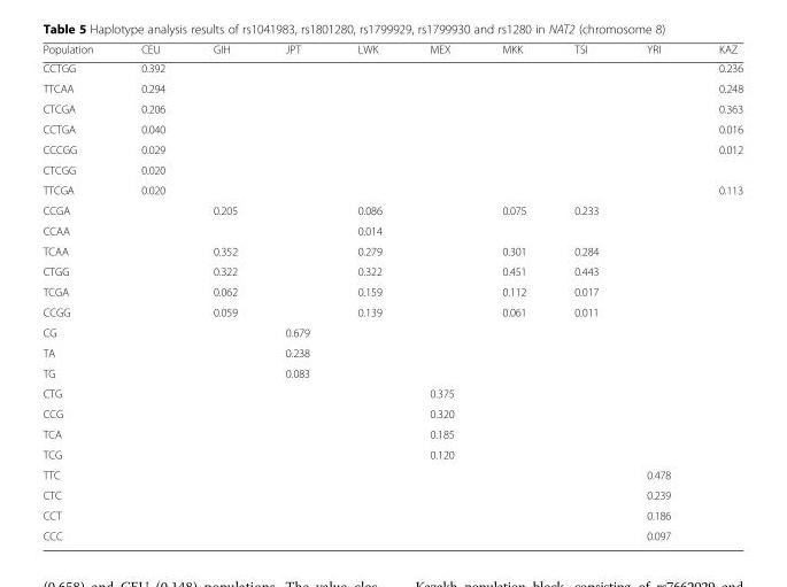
<table><thead><tr><td>Population</td><td>CEU</td><td>GIH</td><td>JPT</td><td>LWK</td><td>MEX</td><td>MKK</td><td>TSI</td><td>YRI</td><td>KAZ</td></tr></thead><tbody><tr><td>CCTGG</td><td>0.392</td><td></td><td></td><td></td><td></td><td></td><td></td><td></td><td>0.236</td></tr><tr><td>TTCAA</td><td>0.294</td><td></td><td></td><td></td><td></td><td></td><td></td><td></td><td>0.248</td></tr><tr><td>CTCGA</td><td>0.206</td><td></td><td></td><td></td><td></td><td></td><td></td><td></td><td>0.363</td></tr><tr><td>CCTGA</td><td>0.040</td><td></td><td></td><td></td><td></td><td></td><td></td><td></td><td>0.016</td></tr><tr><td>CCCGG</td><td>0.029</td><td></td><td></td><td></td><td></td><td></td><td></td><td></td><td>0.012</td></tr><tr><td>CTCGG</td><td>0.020</td><td></td><td></td><td></td><td></td><td></td><td></td><td></td><td></td></tr><tr><td>TTCGA</td><td>0.020</td><td></td><td></td><td></td><td></td><td></td><td></td><td></td><td>0.113</td></tr><tr><td>CCGA</td><td></td><td>0.205</td><td></td><td>0.086</td><td></td><td>0.075</td><td>0.233</td><td></td><td></td></tr><tr><td>CCAA</td><td></td><td></td><td></td><td>0.014</td><td></td><td></td><td></td><td></td><td></td></tr><tr><td>TCAA</td><td></td><td>0.352</td><td></td><td>0.279</td><td></td><td>0.301</td><td>0.284</td><td></td><td></td></tr><tr><td>CTGG</td><td></td><td>0.322</td><td></td><td>0.322</td><td></td><td>0.451</td><td>0.443</td><td></td><td></td></tr><tr><td>TCGA</td><td></td><td>0.062</td><td></td><td>0.159</td><td></td><td>0.112</td><td>0.017</td><td></td><td></td></tr><tr><td>CCGG</td><td></td><td>0.059</td><td></td><td>0.139</td><td></td><td>0.061</td><td>0.011</td><td></td><td></td></tr><tr><td>CG</td><td></td><td></td><td>0.679</td><td></td><td></td><td></td><td></td><td></td><td></td></tr><tr><td>TA</td><td></td><td></td><td>0.238</td><td></td><td></td><td></td><td></td><td></td><td></td></tr><tr><td>TG</td><td></td><td></td><td>0.083</td><td></td><td></td><td></td><td></td><td></td><td></td></tr><tr><td>CTG</td><td></td><td></td><td></td><td></td><td>0.375</td><td></td><td></td><td></td><td></td></tr><tr><td>CCG</td><td></td><td></td><td></td><td></td><td>0.320</td><td></td><td></td><td></td><td></td></tr><tr><td>TCA</td><td></td><td></td><td></td><td></td><td>0.185</td><td></td><td></td><td></td><td></td></tr><tr><td>TCG</td><td></td><td></td><td></td><td></td><td>0.120</td><td></td><td></td><td></td><td></td></tr><tr><td>TTC</td><td></td><td></td><td></td><td></td><td></td><td></td><td></td><td>0.478</td><td></td></tr><tr><td>CTC</td><td></td><td></td><td></td><td></td><td></td><td></td><td></td><td>0.239</td><td></td></tr><tr><td>CCT</td><td></td><td></td><td></td><td></td><td></td><td></td><td></td><td>0.186</td><td></td></tr><tr><td>CCC</td><td></td><td></td><td></td><td></td><td></td><td></td><td></td><td>0.097</td><td></td></tr></tbody></table>